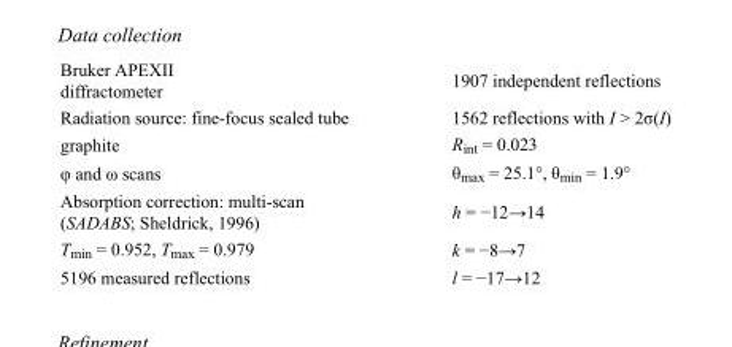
<table><tbody><tr><td>Bruker APEXII diffractometer</td><td>1907 independent reflections</td></tr><tr><td>Radiation source: fine-focus sealed tube</td><td>1562 reflections with I &gt; 2σ(I)</td></tr><tr><td>graphite</td><td>R<sub>int</sub> = 0.023</td></tr><tr><td>φ and ω scans</td><td>θ<sub>max</sub> = 25.1°, θ<sub>min</sub> = 1.9°</td></tr><tr><td>Absorption correction: multi-scan (SADABS; Sheldrick, 1996)</td><td>h = −12→14</td></tr><tr><td>T<sub>min</sub> = 0.952, T<sub>max</sub> = 0.979</td><td>k = −8→7</td></tr><tr><td>5196 measured reflections</td><td>l = −17→12</td></tr></tbody></table>